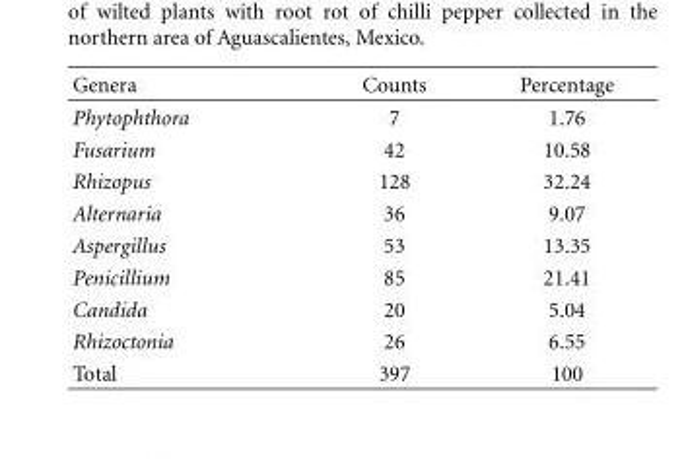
<table><thead><tr><td>Genera</td><td>Counts</td><td>Percentage</td></tr></thead><tbody><tr><td>Phytophthora</td><td>7</td><td>1.76</td></tr><tr><td>Fusarium</td><td>42</td><td>10.58</td></tr><tr><td>Rhizopus</td><td>128</td><td>32.24</td></tr><tr><td>Alternaria</td><td>36</td><td>9.07</td></tr><tr><td>Aspergillus</td><td>53</td><td>13.35</td></tr><tr><td>Penicillium</td><td>85</td><td>21.41</td></tr><tr><td>Candida</td><td>20</td><td>5.04</td></tr><tr><td>Rhizoctonia</td><td>26</td><td>6.55</td></tr><tr><td>Total</td><td>397</td><td>100</td></tr></tbody></table>